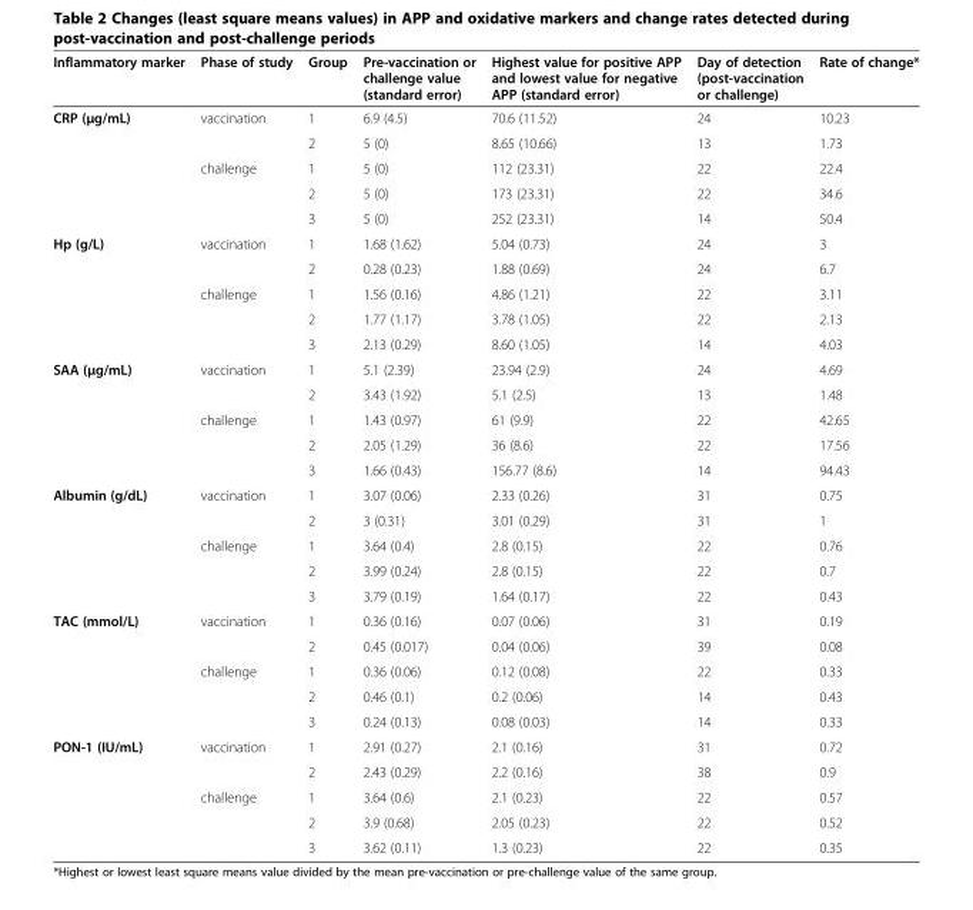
<table><thead><tr><td>Inflammatory marker</td><td>Phase of study</td><td>Group</td><td>Pre-vaccination or challenge value (standard error)</td><td>Highest value for positive APP and lowest value for negative APP (standard error)</td><td>Day of detection (post-vaccination or challenge)</td><td>Rate of change*</td></tr></thead><tbody><tr><td rowspan="5">CRP (μg/mL)</td><td>vaccination</td><td>1</td><td>6.9 (4.5)</td><td>70.6 (11.52)</td><td>24</td><td>10.23</td></tr><tr><td></td><td>2</td><td>5 (0)</td><td>8.65 (10.66)</td><td>13</td><td>1.73</td></tr><tr><td>challenge</td><td>1</td><td>5 (0)</td><td>112 (23.31)</td><td>22</td><td>22.4</td></tr><tr><td></td><td>2</td><td>5 (0)</td><td>173 (23.31)</td><td>22</td><td>34.6</td></tr><tr><td></td><td>3</td><td>5 (0)</td><td>252 (23.31)</td><td>14</td><td>50.4</td></tr><tr><td rowspan="5">Hp (g/L)</td><td>vaccination</td><td>1</td><td>1.68 (1.62)</td><td>5.04 (0.73)</td><td>24</td><td>3</td></tr><tr><td></td><td>2</td><td>0.28 (0.23)</td><td>1.88 (0.69)</td><td>24</td><td>6.7</td></tr><tr><td>challenge</td><td>1</td><td>1.56 (0.16)</td><td>4.86 (1.21)</td><td>22</td><td>3.11</td></tr><tr><td></td><td>2</td><td>1.77 (1.17)</td><td>3.78 (1.05)</td><td>22</td><td>2.13</td></tr><tr><td></td><td>3</td><td>2.13 (0.29)</td><td>8.60 (1.05)</td><td>14</td><td>4.03</td></tr><tr><td rowspan="5">SAA (μg/mL)</td><td>vaccination</td><td>1</td><td>5.1 (2.39)</td><td>23.94 (2.9)</td><td>24</td><td>4.69</td></tr><tr><td></td><td>2</td><td>3.43 (1.92)</td><td>5.1 (2.5)</td><td>13</td><td>1.48</td></tr><tr><td>challenge</td><td>1</td><td>1.43 (0.97)</td><td>61 (9.9)</td><td>22</td><td>42.65</td></tr><tr><td></td><td>2</td><td>2.05 (1.29)</td><td>36 (8.6)</td><td>22</td><td>17.56</td></tr><tr><td></td><td>3</td><td>1.66 (0.43)</td><td>156.77 (8.6)</td><td>14</td><td>94.43</td></tr><tr><td rowspan="5">Albumin (g/dL)</td><td>vaccination</td><td>1</td><td>3.07 (0.06)</td><td>2.33 (0.26)</td><td>31</td><td>0.75</td></tr><tr><td></td><td>2</td><td>3 (0.31)</td><td>3.01 (0.29)</td><td>31</td><td>1</td></tr><tr><td>challenge</td><td>1</td><td>3.64 (0.4)</td><td>2.8 (0.15)</td><td>22</td><td>0.76</td></tr><tr><td></td><td>2</td><td>3.99 (0.24)</td><td>2.8 (0.15)</td><td>22</td><td>0.7</td></tr><tr><td></td><td>3</td><td>3.79 (0.19)</td><td>1.64 (0.17)</td><td>22</td><td>0.43</td></tr><tr><td rowspan="5">TAC (mmol/L)</td><td>vaccination</td><td>1</td><td>0.36 (0.16)</td><td>0.07 (0.06)</td><td>31</td><td>0.19</td></tr><tr><td></td><td>2</td><td>0.45 (0.017)</td><td>0.04 (0.06)</td><td>39</td><td>0.08</td></tr><tr><td>challenge</td><td>1</td><td>0.36 (0.06)</td><td>0.12 (0.08)</td><td>22</td><td>0.33</td></tr><tr><td></td><td>2</td><td>0.46 (0.1)</td><td>0.2 (0.06)</td><td>14</td><td>0.43</td></tr><tr><td></td><td>3</td><td>0.24 (0.13)</td><td>0.08 (0.03)</td><td>14</td><td>0.33</td></tr><tr><td rowspan="5">PON-1 (IU/mL)</td><td>vaccination</td><td>1</td><td>2.91 (0.27)</td><td>2.1 (0.16)</td><td>31</td><td>0.72</td></tr><tr><td></td><td>2</td><td>2.43 (0.29)</td><td>2.2 (0.16)</td><td>38</td><td>0.9</td></tr><tr><td>challenge</td><td>1</td><td>3.64 (0.6)</td><td>2.1 (0.23)</td><td>22</td><td>0.57</td></tr><tr><td></td><td>2</td><td>3.9 (0.68)</td><td>2.05 (0.23)</td><td>22</td><td>0.52</td></tr><tr><td></td><td>3</td><td>3.62 (0.11)</td><td>1.3 (0.23)</td><td>22</td><td>0.35</td></tr></tbody></table>